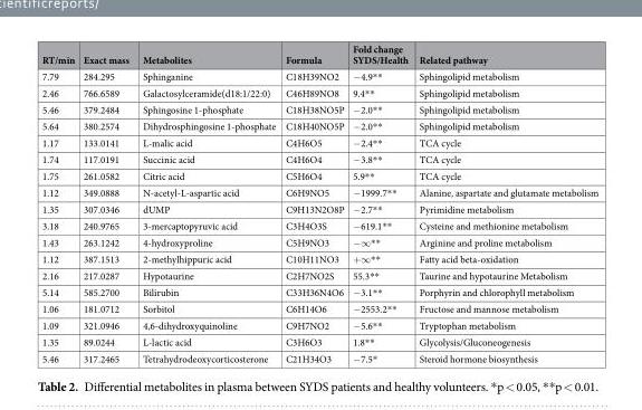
<table><thead><tr><td>RT/min</td><td>Exact mass</td><td>Metabolites</td><td>Formula</td><td>Fold change SYDS/Health</td><td>Related pathway</td></tr></thead><tbody><tr><td>7.79</td><td>284.295</td><td>Sphinganine</td><td>C18H39NO2</td><td>−4.9**</td><td>Sphingolipid metabolism</td></tr><tr><td>2.46</td><td>766.6589</td><td>Galactosylceramide(d18:1/22:0)</td><td>C46H89NO8</td><td>9.4**</td><td>Sphingolipid metabolism</td></tr><tr><td>5.46</td><td>379.2484</td><td>Sphingosine 1-phosphate</td><td>C18H38NO5P</td><td>−2.0**</td><td>Sphingolipid metabolism</td></tr><tr><td>5.64</td><td>380.2574</td><td>Dihydrosphingosine 1-phosphate</td><td>C18H40NO5P</td><td>−2.0**</td><td>Sphingolipid metabolism</td></tr><tr><td>1.17</td><td>133.0141</td><td>L-malic acid</td><td>C4H6O5</td><td>−2.4**</td><td>TCA cycle</td></tr><tr><td>1.74</td><td>117.0191</td><td>Succinic acid</td><td>C4H6O4</td><td>−3.8**</td><td>TCA cycle</td></tr><tr><td>1.75</td><td>261.0582</td><td>Citric acid</td><td>C5H6O4</td><td>5.9**</td><td>TCA cycle</td></tr><tr><td>1.12</td><td>349.0888</td><td>N-acetyl-L-aspartic acid</td><td>C6H9NO5</td><td>−1999.7**</td><td>Alanine, aspartate and glutamate metabolism</td></tr><tr><td>1.35</td><td>307.0346</td><td>dUMP</td><td>C9H13N2O8P</td><td>−2.7**</td><td>Pyrimidine metabolism</td></tr><tr><td>3.18</td><td>240.9765</td><td>3-mercaptopyruvic acid</td><td>C3H4O3S</td><td>−619.1**</td><td>Cysteine and methionine metabolism</td></tr><tr><td>1.43</td><td>263.1242</td><td>4-hydroxyproline</td><td>C5H9NO3</td><td>−∞**</td><td>Arginine and proline metabolism</td></tr><tr><td>1.12</td><td>387.1513</td><td>2-methylhippuric acid</td><td>C10H11NO3</td><td>+∞**</td><td>Fatty acid beta-oxidation</td></tr><tr><td>2.16</td><td>217.0287</td><td>Hypotaurine</td><td>C2H7NO2S</td><td>55.3**</td><td>Taurine and hypotaurine Metabolism</td></tr><tr><td>5.14</td><td>585.2700</td><td>Bilirubin</td><td>C33H36N4O6</td><td>−3.1**</td><td>Porphyrin and chlorophyll metabolism</td></tr><tr><td>1.06</td><td>181.0712</td><td>Sorbitol</td><td>C6H14O6</td><td>−2553.2**</td><td>Fructose and mannose metabolism</td></tr><tr><td>1.09</td><td>321.0946</td><td>4,6-dihydroxyquinoline</td><td>C9H7NO2</td><td>−5.6**</td><td>Tryptophan metabolism</td></tr><tr><td>1.35</td><td>89.0244</td><td>L-lactic acid</td><td>C3H6O3</td><td>1.8**</td><td>Glycolysis/Gluconeogenesis</td></tr><tr><td>5.46</td><td>317.2465</td><td>Tetrahydrodeoxycorticosterone</td><td>C21H34O3</td><td>−7.5*</td><td>Steroid hormone biosynthesis</td></tr></tbody></table>